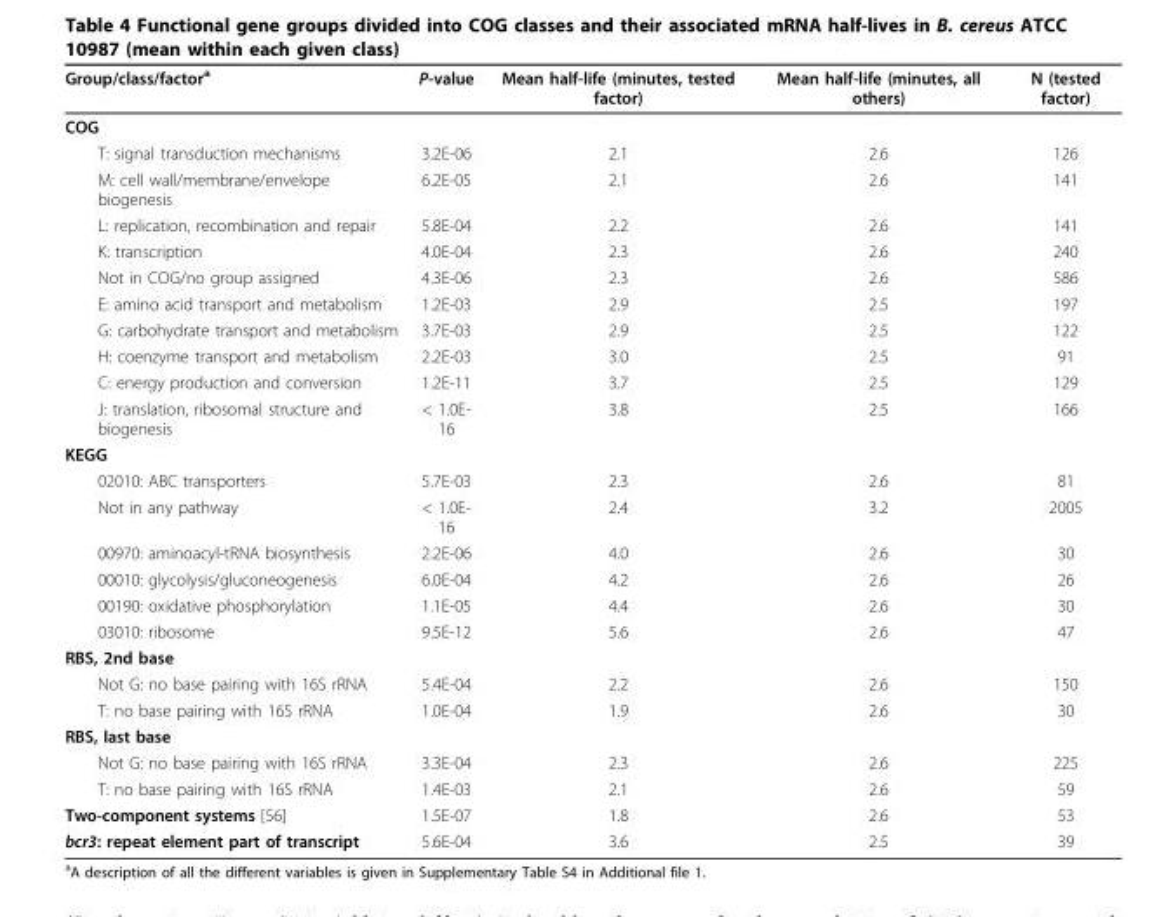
<table><thead><tr><td>Group/class/factor<sup>a</sup></td><td>P-value</td><td>Mean half-life (minutes, tested factor)</td><td>Mean half-life (minutes, all others)</td><td>N (tested factor)</td></tr></thead><tbody><tr><td colspan="5">COG</td></tr><tr><td>T: signal transduction mechanisms</td><td>3.2E-06</td><td>2.1</td><td>2.6</td><td>126</td></tr><tr><td>M: cell wall/membrane/envelope biogenesis</td><td>6.2E-05</td><td>2.1</td><td>2.6</td><td>141</td></tr><tr><td>L: replication, recombination and repair</td><td>5.8E-04</td><td>2.2</td><td>2.6</td><td>141</td></tr><tr><td>K: transcription</td><td>4.0E-04</td><td>2.3</td><td>2.6</td><td>240</td></tr><tr><td>Not in COG/no group assigned</td><td>4.3E-06</td><td>2.3</td><td>2.6</td><td>586</td></tr><tr><td>E: amino acid transport and metabolism</td><td>1.2E-03</td><td>2.9</td><td>2.5</td><td>197</td></tr><tr><td>G: carbohydrate transport and metabolism</td><td>3.7E-03</td><td>2.9</td><td>2.5</td><td>122</td></tr><tr><td>H: coenzyme transport and metabolism</td><td>2.2E-03</td><td>3.0</td><td>2.5</td><td>91</td></tr><tr><td>C: energy production and conversion</td><td>1.2E-11</td><td>3.7</td><td>2.5</td><td>129</td></tr><tr><td>J: translation, ribosomal structure and biogenesis</td><td>&lt; 1.0E- 16</td><td>3.8</td><td>2.5</td><td>166</td></tr><tr><td colspan="5">KEGG</td></tr><tr><td>02010: ABC transporters</td><td>5.7E-03</td><td>2.3</td><td>2.6</td><td>81</td></tr><tr><td>Not in any pathway</td><td>&lt; 1.0E- 16</td><td>2.4</td><td>3.2</td><td>2005</td></tr><tr><td>00970: aminoacyl-tRNA biosynthesis</td><td>2.2E-06</td><td>4.0</td><td>2.6</td><td>30</td></tr><tr><td>00010: glycolysis/gluconeogenesis</td><td>6.0E-04</td><td>4.2</td><td>2.6</td><td>26</td></tr><tr><td>00190: oxidative phosphorylation</td><td>1.1E-05</td><td>4.4</td><td>2.6</td><td>30</td></tr><tr><td>03010: ribosome</td><td>9.5E-12</td><td>5.6</td><td>2.6</td><td>47</td></tr><tr><td colspan="5">RBS, 2nd base</td></tr><tr><td>Not G: no base pairing with 16S rRNA</td><td>5.4E-04</td><td>2.2</td><td>2.6</td><td>150</td></tr><tr><td>T: no base pairing with 16S rRNA</td><td>1.0E-04</td><td>1.9</td><td>2.6</td><td>30</td></tr><tr><td colspan="5">RBS, last base</td></tr><tr><td>Not G: no base pairing with 16S rRNA</td><td>3.3E-04</td><td>2.3</td><td>2.6</td><td>225</td></tr><tr><td>T: no base pairing with 16S rRNA</td><td>1.4E-03</td><td>2.1</td><td>2.6</td><td>59</td></tr><tr><td>Two-component systems [56]</td><td>1.5E-07</td><td>1.8</td><td>2.6</td><td>53</td></tr><tr><td>bcr3: repeat element part of transcript</td><td>5.6E-04</td><td>3.6</td><td>2.5</td><td>39</td></tr></tbody></table>